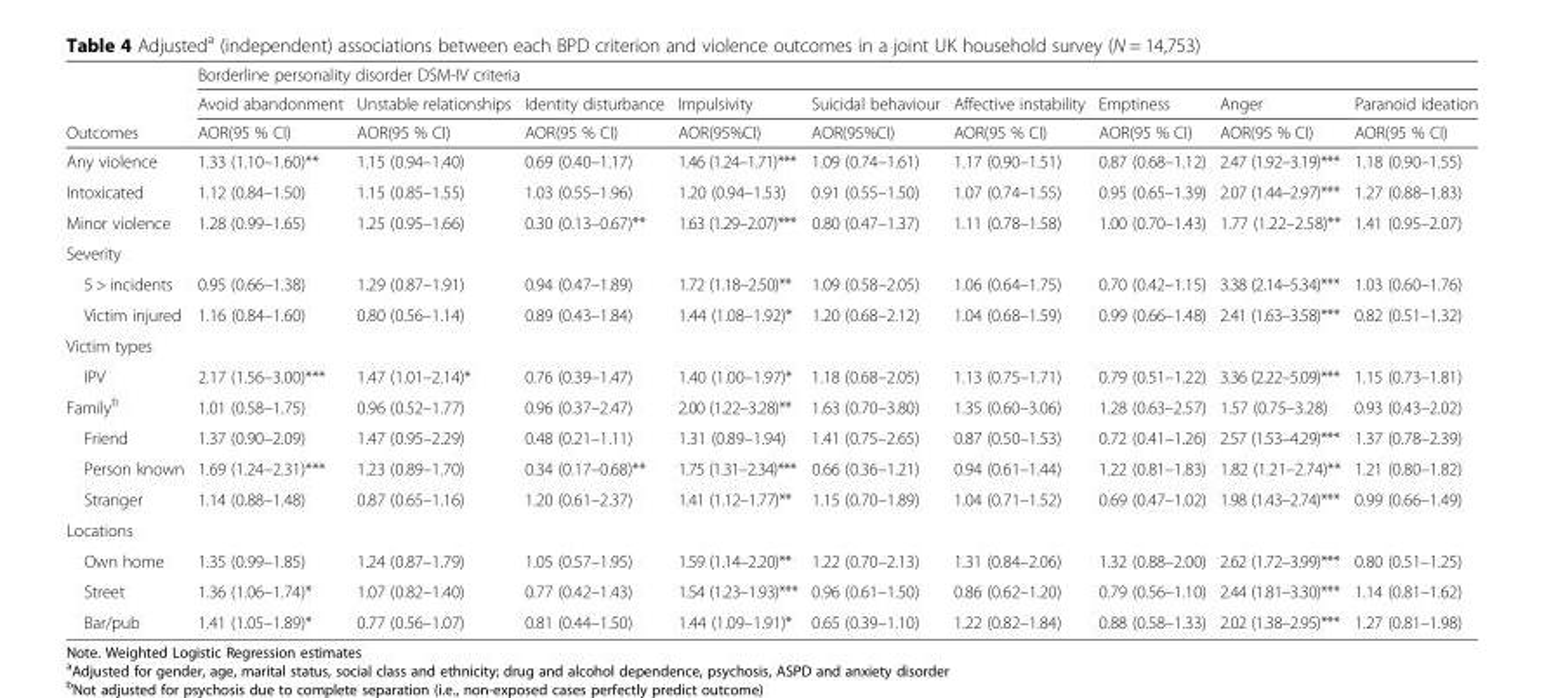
<table><thead><tr><td rowspan="3">Outcomes</td><td colspan="9">Borderline personality disorder DSM-IV criteria</td></tr><tr><td rowspan="2">Avoid abandonment AOR(95 % CI)</td><td rowspan="2">Unstable relationships AOR(95 % CI)</td><td rowspan="2">Identity disturbance AOR(95 % CI)</td><td rowspan="2">Impulsivity AOR(95%CI)</td><td rowspan="2">Suicidal behaviour AOR(95%CI)</td><td rowspan="2">Affective instability AOR(95 % CI)</td><td rowspan="2">Emptiness AOR(95 % CI)</td><td rowspan="2">Anger AOR(95 % CI)</td><td rowspan="2">Paranoid ideation AOR(95 % CI)</td></tr><tr></tr></thead><tbody><tr><td>Any violence</td><td>1.33 (1.10–1.60)**</td><td>1.15 (0.94–1.40)</td><td>0.69 (0.40–1.17)</td><td>1.46 (1.24–1.71)***</td><td>1.09 (0.74–1.61)</td><td>1.17 (0.90–1.51)</td><td>0.87 (0.68–1.12)</td><td>2.47 (1.92–3.19)***</td><td>1.18 (0.90–1.55)</td></tr><tr><td>Intoxicated</td><td>1.12 (0.84–1.50)</td><td>1.15 (0.85–1.55)</td><td>1.03 (0.55–1.96)</td><td>1.20 (0.94–1.53)</td><td>0.91 (0.55–1.50)</td><td>1.07 (0.74–1.55)</td><td>0.95 (0.65–1.39)</td><td>2.07 (1.44–2.97)***</td><td>1.27 (0.88–1.83)</td></tr><tr><td>Minor violence</td><td>1.28 (0.99–1.65)</td><td>1.25 (0.95–1.66)</td><td>0.30 (0.13–0.67)**</td><td>1.63 (1.29–2.07)***</td><td>0.80 (0.47–1.37)</td><td>1.11 (0.78–1.58)</td><td>1.00 (0.70–1.43)</td><td>1.77 (1.22–2.58)**</td><td>1.41 (0.95–2.07)</td></tr><tr><td colspan="10">Severity</td></tr><tr><td>5 &gt; incidents</td><td>0.95 (0.66–1.38)</td><td>1.29 (0.87–1.91)</td><td>0.94 (0.47–1.89)</td><td>1.72 (1.18–2.50)**</td><td>1.09 (0.58–2.05)</td><td>1.06 (0.64–1.75)</td><td>0.70 (0.42–1.15)</td><td>3.38 (2.14–5.34)***</td><td>1.03 (0.60–1.76)</td></tr><tr><td>Victim injured</td><td>1.16 (0.84–1.60)</td><td>0.80 (0.56–1.14)</td><td>0.89 (0.43–1.84)</td><td>1.44 (1.08–1.92)*</td><td>1.20 (0.68–2.12)</td><td>1.04 (0.68–1.59)</td><td>0.99 (0.66–1.48)</td><td>2.41 (1.63–3.58)***</td><td>0.82 (0.51–1.32)</td></tr><tr><td colspan="10">Victim types</td></tr><tr><td>IPV</td><td>2.17 (1.56–3.00)***</td><td>1.47 (1.01–2.14)*</td><td>0.76 (0.39–1.47)</td><td>1.40 (1.00–1.97)*</td><td>1.18 (0.68–2.05)</td><td>1.13 (0.75–1.71)</td><td>0.79 (0.51–1.22)</td><td>3.36 (2.22–5.09)***</td><td>1.15 (0.73–1.81)</td></tr><tr><td>Family<sup>b</sup></td><td>1.01 (0.58–1.75)</td><td>0.96 (0.52–1.77)</td><td>0.96 (0.37–2.47)</td><td>2.00 (1.22–3.28)**</td><td>1.63 (0.70–3.80)</td><td>1.35 (0.60–3.06)</td><td>1.28 (0.63–2.57)</td><td>1.57 (0.75–3.28)</td><td>0.93 (0.43–2.02)</td></tr><tr><td>Friend</td><td>1.37 (0.90–2.09)</td><td>1.47 (0.95–2.29)</td><td>0.48 (0.21–1.11)</td><td>1.31 (0.89–1.94)</td><td>1.41 (0.75–2.65)</td><td>0.87 (0.50–1.53)</td><td>0.72 (0.41–1.26)</td><td>2.57 (1.53–4.29)***</td><td>1.37 (0.78–2.39)</td></tr><tr><td>Person known</td><td>1.69 (1.24–2.31)***</td><td>1.23 (0.89–1.70)</td><td>0.34 (0.17–0.68)**</td><td>1.75 (1.31–2.34)***</td><td>0.66 (0.36–1.21)</td><td>0.94 (0.61–1.44)</td><td>1.22 (0.81–1.83)</td><td>1.82 (1.21–2.74)**</td><td>1.21 (0.80–1.82)</td></tr><tr><td>Stranger</td><td>1.14 (0.88–1.48)</td><td>0.87 (0.65–1.16)</td><td>1.20 (0.61–2.37)</td><td>1.41 (1.12–1.77)**</td><td>1.15 (0.70–1.89)</td><td>1.04 (0.71–1.52)</td><td>0.69 (0.47–1.02)</td><td>1.98 (1.43–2.74)***</td><td>0.99 (0.66–1.49)</td></tr><tr><td colspan="10">Locations</td></tr><tr><td>Own home</td><td>1.35 (0.99–1.85)</td><td>1.24 (0.87–1.79)</td><td>1.05 (0.57–1.95)</td><td>1.59 (1.14–2.20)**</td><td>1.22 (0.70–2.13)</td><td>1.31 (0.84–2.06)</td><td>1.32 (0.88–2.00)</td><td>2.62 (1.72–3.99)***</td><td>0.80 (0.51–1.25)</td></tr><tr><td>Street</td><td>1.36 (1.06–1.74)*</td><td>1.07 (0.82–1.40)</td><td>0.77 (0.42–1.43)</td><td>1.54 (1.23–1.93)***</td><td>0.96 (0.61–1.50)</td><td>0.86 (0.62–1.20)</td><td>0.79 (0.56–1.10)</td><td>2.44 (1.81–3.30)***</td><td>1.14 (0.81–1.62)</td></tr><tr><td>Bar/pub</td><td>1.41 (1.05–1.89)*</td><td>0.77 (0.56–1.07)</td><td>0.81 (0.44–1.50)</td><td>1.44 (1.09–1.91)*</td><td>0.65 (0.39–1.10)</td><td>1.22 (0.82–1.84)</td><td>0.88 (0.58–1.33)</td><td>2.02 (1.38–2.95)***</td><td>1.27 (0.81–1.98)</td></tr></tbody></table>